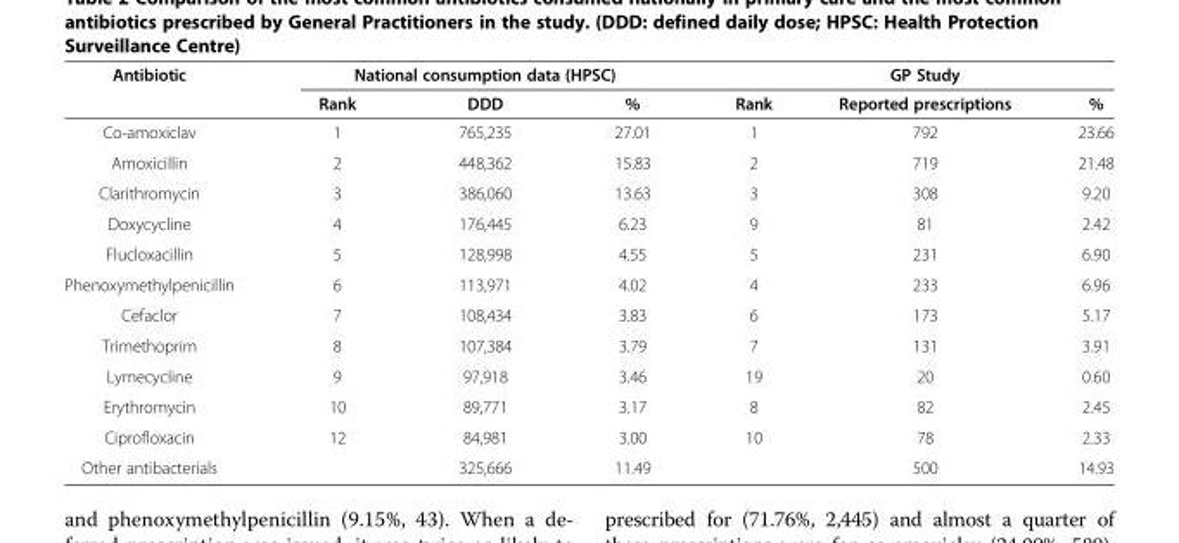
<table><thead><tr><td rowspan="2">Antibiotic</td><td colspan="3">National consumption data (HPSC)</td><td colspan="3">GP Study</td></tr><tr><td>Rank</td><td>DDD</td><td>%</td><td>Rank</td><td>Reported prescriptions</td><td>%</td></tr></thead><tbody><tr><td>Co-amoxiclav</td><td>1</td><td>765,235</td><td>27.01</td><td>1</td><td>792</td><td>23.66</td></tr><tr><td>Amoxicillin</td><td>2</td><td>448,362</td><td>15.83</td><td>2</td><td>719</td><td>21.48</td></tr><tr><td>Clarithromycin</td><td>3</td><td>386,060</td><td>13.63</td><td>3</td><td>308</td><td>9.20</td></tr><tr><td>Doxycycline</td><td>4</td><td>176,445</td><td>6.23</td><td>9</td><td>81</td><td>2.42</td></tr><tr><td>Flucloxacillin</td><td>5</td><td>128,998</td><td>4.55</td><td>5</td><td>231</td><td>6.90</td></tr><tr><td>Phenoxymethylpenicillin</td><td>6</td><td>113,971</td><td>4.02</td><td>4</td><td>233</td><td>6.96</td></tr><tr><td>Cefaclor</td><td>7</td><td>108,434</td><td>3.83</td><td>6</td><td>173</td><td>5.17</td></tr><tr><td>Trimethoprim</td><td>8</td><td>107,384</td><td>3.79</td><td>7</td><td>131</td><td>3.91</td></tr><tr><td>Lymecycline</td><td>9</td><td>97,918</td><td>3.46</td><td>19</td><td>20</td><td>0.60</td></tr><tr><td>Erythromycin</td><td>10</td><td>89,771</td><td>3.17</td><td>8</td><td>82</td><td>2.45</td></tr><tr><td>Ciprofloxacin</td><td>12</td><td>84,981</td><td>3.00</td><td>10</td><td>78</td><td>2.33</td></tr><tr><td>Other antibacterials</td><td></td><td>325,666</td><td>11.49</td><td></td><td>500</td><td>14.93</td></tr></tbody></table>